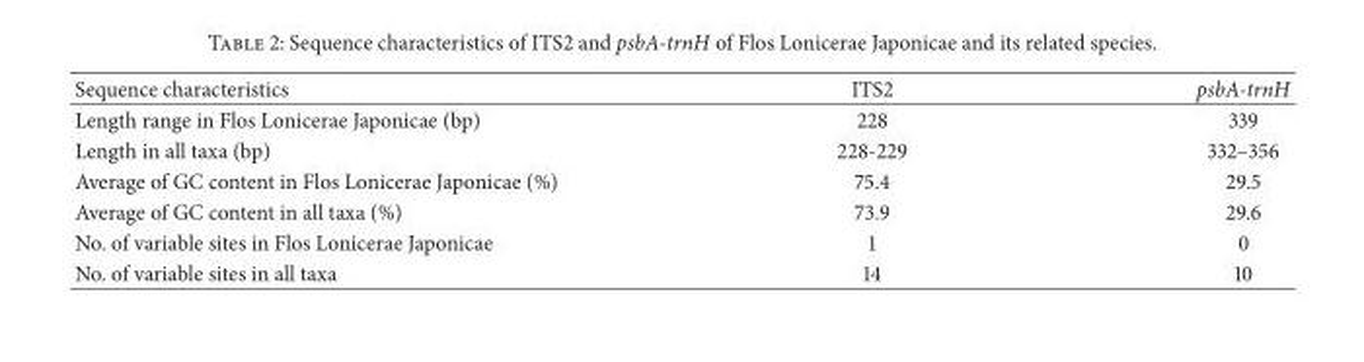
<table><thead><tr><td>Sequence characteristics</td><td>ITS2</td><td>psbA-trnH</td></tr></thead><tbody><tr><td>Length range in Flos Lonicerae Japonicae (bp)</td><td>228</td><td>339</td></tr><tr><td>Length in all taxa (bp)</td><td>228-229</td><td>332–356</td></tr><tr><td>Average of GC content in Flos Lonicerae Japonicae (%)</td><td>75.4</td><td>29.5</td></tr><tr><td>Average of GC content in all taxa (%)</td><td>73.9</td><td>29.6</td></tr><tr><td>No. of variable sites in Flos Lonicerae Japonicae</td><td>1</td><td>0</td></tr><tr><td>No. of variable sites in all taxa</td><td>14</td><td>10</td></tr></tbody></table>